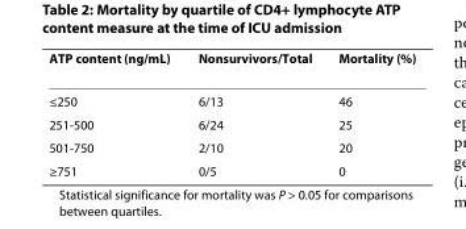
<table><thead><tr><td>ATP content (ng/mL)</td><td>Nonsurvivors/Total</td><td>Mortality (%)</td></tr></thead><tbody><tr><td>≤250</td><td>6/13</td><td>46</td></tr><tr><td>251-500</td><td>6/24</td><td>25</td></tr><tr><td>501-750</td><td>2/10</td><td>20</td></tr><tr><td>≥751</td><td>0/5</td><td>0</td></tr></tbody></table>